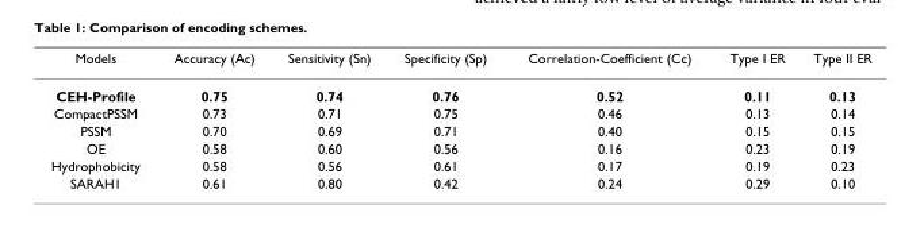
<table><thead><tr><td>Models</td><td>Accuracy (Ac)</td><td>Sensitivity (Sn)</td><td>Specificity (Sp)</td><td>Correlation-Coefficient (Cc)</td><td>Type I ER</td><td>Type II ER</td></tr></thead><tbody><tr><td>CEH-Profile</td><td>0.75</td><td>0.74</td><td>0.76</td><td>0.52</td><td>0.11</td><td>0.13</td></tr><tr><td>CompactPSSM</td><td>0.73</td><td>0.71</td><td>0.75</td><td>0.46</td><td>0.13</td><td>0.14</td></tr><tr><td>PSSM</td><td>0.70</td><td>0.69</td><td>0.71</td><td>0.40</td><td>0.15</td><td>0.15</td></tr><tr><td>OE</td><td>0.58</td><td>0.60</td><td>0.56</td><td>0.16</td><td>0.23</td><td>0.19</td></tr><tr><td>Hydrophobicity</td><td>0.58</td><td>0.56</td><td>0.61</td><td>0.17</td><td>0.19</td><td>0.23</td></tr><tr><td>SARAH1</td><td>0.61</td><td>0.80</td><td>0.42</td><td>0.24</td><td>0.29</td><td>0.10</td></tr></tbody></table>